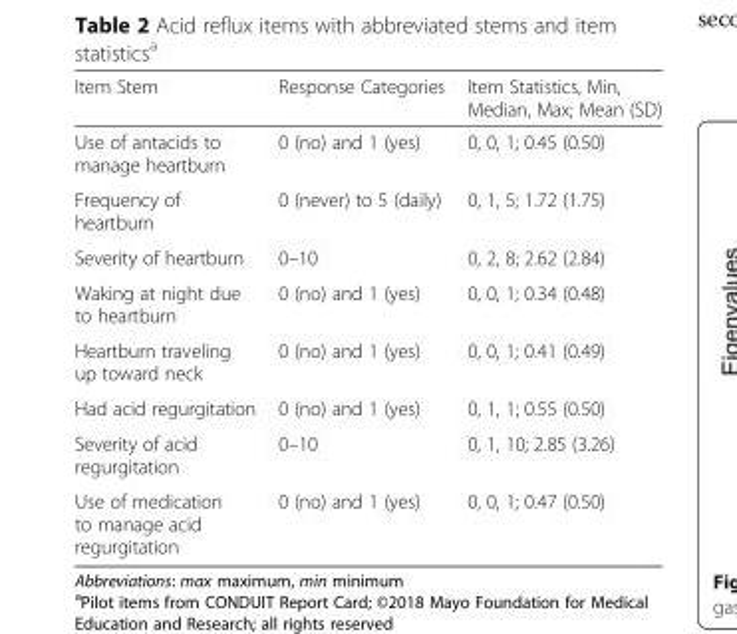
<table><thead><tr><td>Item Stem</td><td>Response Categories</td><td>Item Statistics, Min, Median, Max; Mean (SD)</td></tr></thead><tbody><tr><td>Use of antacids to manage heartburn</td><td>0 (no) and 1 (yes)</td><td>0, 0, 1; 0.45 (0.50)</td></tr><tr><td>Frequency of heartburn</td><td>0 (never) to 5 (daily)</td><td>0, 1, 5; 1.72 (1.75)</td></tr><tr><td>Severity of heartburn</td><td>0–10</td><td>0, 2, 8; 2.62 (2.84)</td></tr><tr><td>Waking at night due to heartburn</td><td>0 (no) and 1 (yes)</td><td>0, 0, 1; 0.34 (0.48)</td></tr><tr><td>Heartburn traveling up toward neck</td><td>0 (no) and 1 (yes)</td><td>0, 0, 1; 0.41 (0.49)</td></tr><tr><td>Had acid regurgitation</td><td>0 (no) and 1 (yes)</td><td>0, 1, 1; 0.55 (0.50)</td></tr><tr><td>Severity of acid regurgitation</td><td>0–10</td><td>0, 1, 10; 2.85 (3.26)</td></tr><tr><td>Use of medication to manage acid regurgitation</td><td>0 (no) and 1 (yes)</td><td>0, 0, 1; 0.47 (0.50)</td></tr></tbody></table>